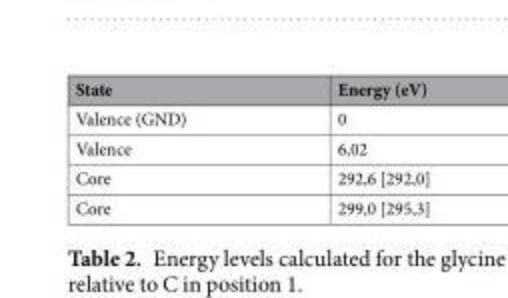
<table><thead><tr><td>State</td><td>Energy (eV)</td></tr></thead><tbody><tr><td>Valence (GND)</td><td>0</td></tr><tr><td>Valence</td><td>6,02</td></tr><tr><td>Core</td><td>292,6 [292,0]</td></tr><tr><td>Core</td><td>299,0 [295,3]</td></tr></tbody></table>